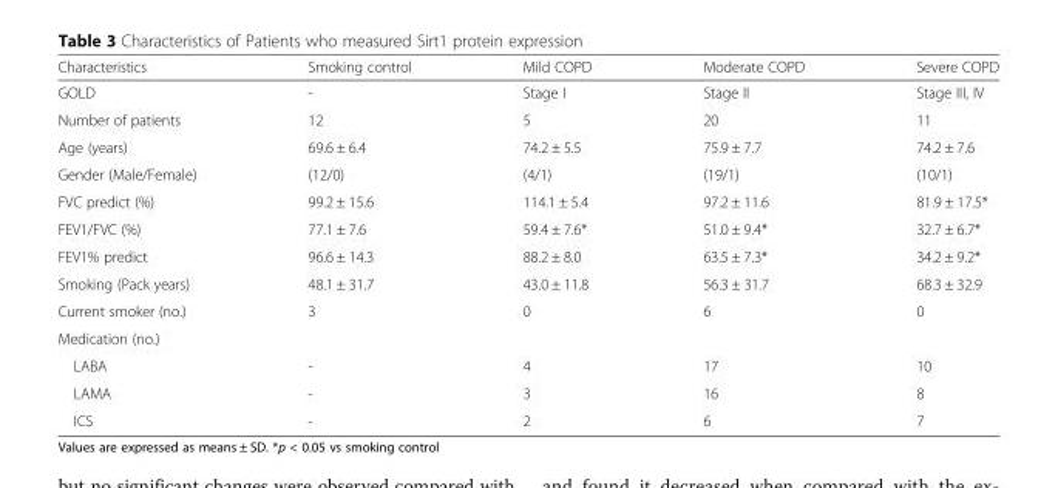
<table><thead><tr><td>Characteristics</td><td>Smoking control</td><td>Mild COPD</td><td>Moderate COPD</td><td>Severe COPD</td></tr></thead><tbody><tr><td>GOLD</td><td>-</td><td>Stage I</td><td>Stage II</td><td>Stage III, IV</td></tr><tr><td>Number of patients</td><td>12</td><td>5</td><td>20</td><td>11</td></tr><tr><td>Age (years)</td><td>69.6 ± 6.4</td><td>74.2 ± 5.5</td><td>75.9 ± 7.7</td><td>74.2 ± 7.6</td></tr><tr><td>Gender (Male/Female)</td><td>(12/0)</td><td>(4/1)</td><td>(19/1)</td><td>(10/1)</td></tr><tr><td>FVC predict (%)</td><td>99.2 ± 15.6</td><td>114.1 ± 5.4</td><td>97.2 ± 11.6</td><td>81.9 ± 17.5*</td></tr><tr><td>FEV1/FVC (%)</td><td>77.1 ± 7.6</td><td>59.4 ± 7.6*</td><td>51.0 ± 9.4*</td><td>32.7 ± 6.7*</td></tr><tr><td>FEV1% predict</td><td>96.6 ± 14.3</td><td>88.2 ± 8.0</td><td>63.5 ± 7.3*</td><td>34.2 ± 9.2*</td></tr><tr><td>Smoking (Pack years)</td><td>48.1 ± 31.7</td><td>43.0 ± 11.8</td><td>56.3 ± 31.7</td><td>68.3 ± 32.9</td></tr><tr><td>Current smoker (no.)</td><td>3</td><td>0</td><td>6</td><td>0</td></tr><tr><td colspan="5">Medication (no.)</td></tr><tr><td>LABA</td><td>-</td><td>4</td><td>17</td><td>10</td></tr><tr><td>LAMA</td><td>-</td><td>3</td><td>16</td><td>8</td></tr><tr><td>ICS</td><td>-</td><td>2</td><td>6</td><td>7</td></tr></tbody></table>